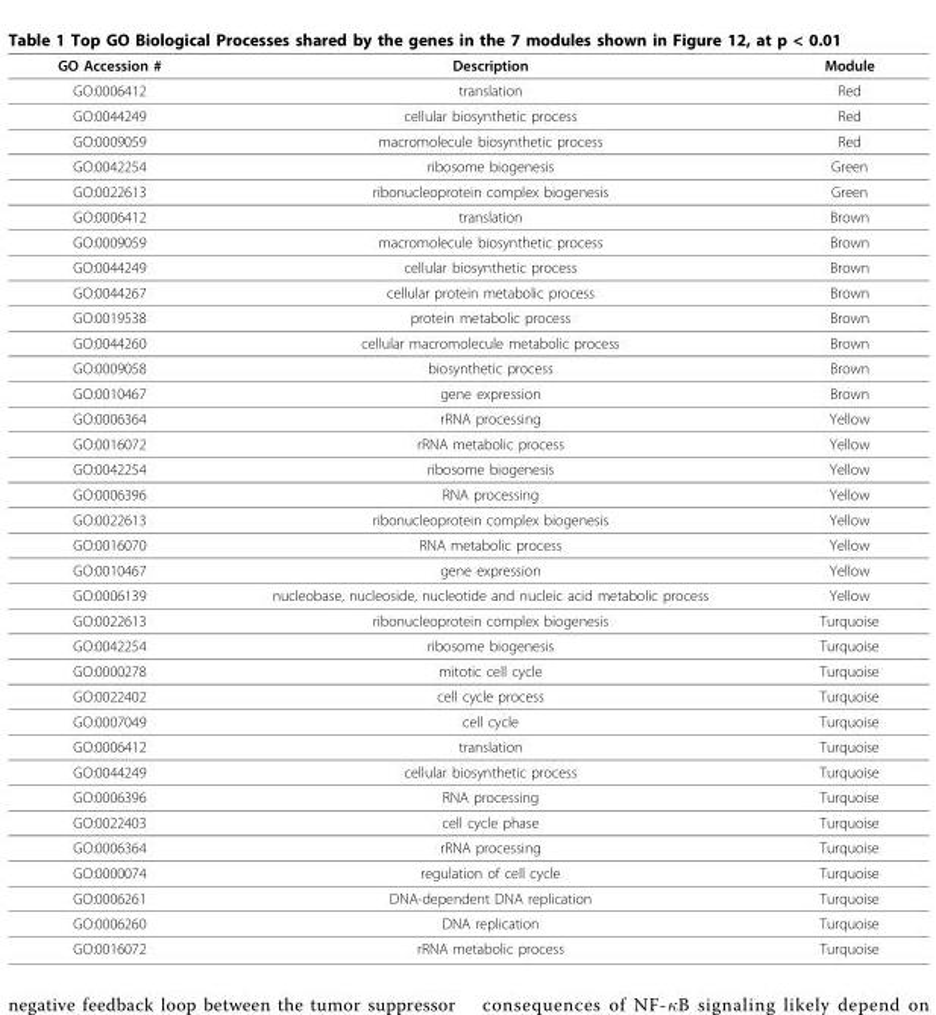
<table><thead><tr><td>GO Accession #</td><td>Description</td><td>Module</td></tr></thead><tbody><tr><td>GO:0006412</td><td>translation</td><td>Red</td></tr><tr><td>GO:0044249</td><td>cellular biosynthetic process</td><td>Red</td></tr><tr><td>GO:0009059</td><td>macromolecule biosynthetic process</td><td>Red</td></tr><tr><td>GO:0042254</td><td>ribosome biogenesis</td><td>Green</td></tr><tr><td>GO:0022613</td><td>ribonucleoprotein complex biogenesis</td><td>Green</td></tr><tr><td>GO:0006412</td><td>translation</td><td>Brown</td></tr><tr><td>GO:0009059</td><td>macromolecule biosynthetic process</td><td>Brown</td></tr><tr><td>GO:0044249</td><td>cellular biosynthetic process</td><td>Brown</td></tr><tr><td>GO:0044267</td><td>cellular protein metabolic process</td><td>Brown</td></tr><tr><td>GO:0019538</td><td>protein metabolic process</td><td>Brown</td></tr><tr><td>GO:0044260</td><td>cellular macromolecule metabolic process</td><td>Brown</td></tr><tr><td>GO:0009058</td><td>biosynthetic process</td><td>Brown</td></tr><tr><td>GO:0010467</td><td>gene expression</td><td>Brown</td></tr><tr><td>GO:0006364</td><td>rRNA processing</td><td>Yellow</td></tr><tr><td>GO:0016072</td><td>rRNA metabolic process</td><td>Yellow</td></tr><tr><td>GO:0042254</td><td>ribosome biogenesis</td><td>Yellow</td></tr><tr><td>GO:0006396</td><td>RNA processing</td><td>Yellow</td></tr><tr><td>GO:0022613</td><td>ribonucleoprotein complex biogenesis</td><td>Yellow</td></tr><tr><td>GO:0016070</td><td>RNA metabolic process</td><td>Yellow</td></tr><tr><td>GO:0010467</td><td>gene expression</td><td>Yellow</td></tr><tr><td>GO:0006139</td><td>nucleobase, nucleoside, nucleotide and nucleic acid metabolic process</td><td>Yellow</td></tr><tr><td>GO:0022613</td><td>ribonucleoprotein complex biogenesis</td><td>Turquoise</td></tr><tr><td>GO:0042254</td><td>ribosome biogenesis</td><td>Turquoise</td></tr><tr><td>GO:0000278</td><td>mitotic cell cycle</td><td>Turquoise</td></tr><tr><td>GO:0022402</td><td>cell cycle process</td><td>Turquoise</td></tr><tr><td>GO:0007049</td><td>cell cycle</td><td>Turquoise</td></tr><tr><td>GO:0006412</td><td>translation</td><td>Turquoise</td></tr><tr><td>GO:0044249</td><td>cellular biosynthetic process</td><td>Turquoise</td></tr><tr><td>GO:0006396</td><td>RNA processing</td><td>Turquoise</td></tr><tr><td>GO:0022403</td><td>cell cycle phase</td><td>Turquoise</td></tr><tr><td>GO:0006364</td><td>rRNA processing</td><td>Turquoise</td></tr><tr><td>GO:0000074</td><td>regulation of cell cycle</td><td>Turquoise</td></tr><tr><td>GO:0006261</td><td>DNA-dependent DNA replication</td><td>Turquoise</td></tr><tr><td>GO:0006260</td><td>DNA replication</td><td>Turquoise</td></tr><tr><td>GO:0016072</td><td>rRNA metabolic process</td><td>Turquoise</td></tr></tbody></table>